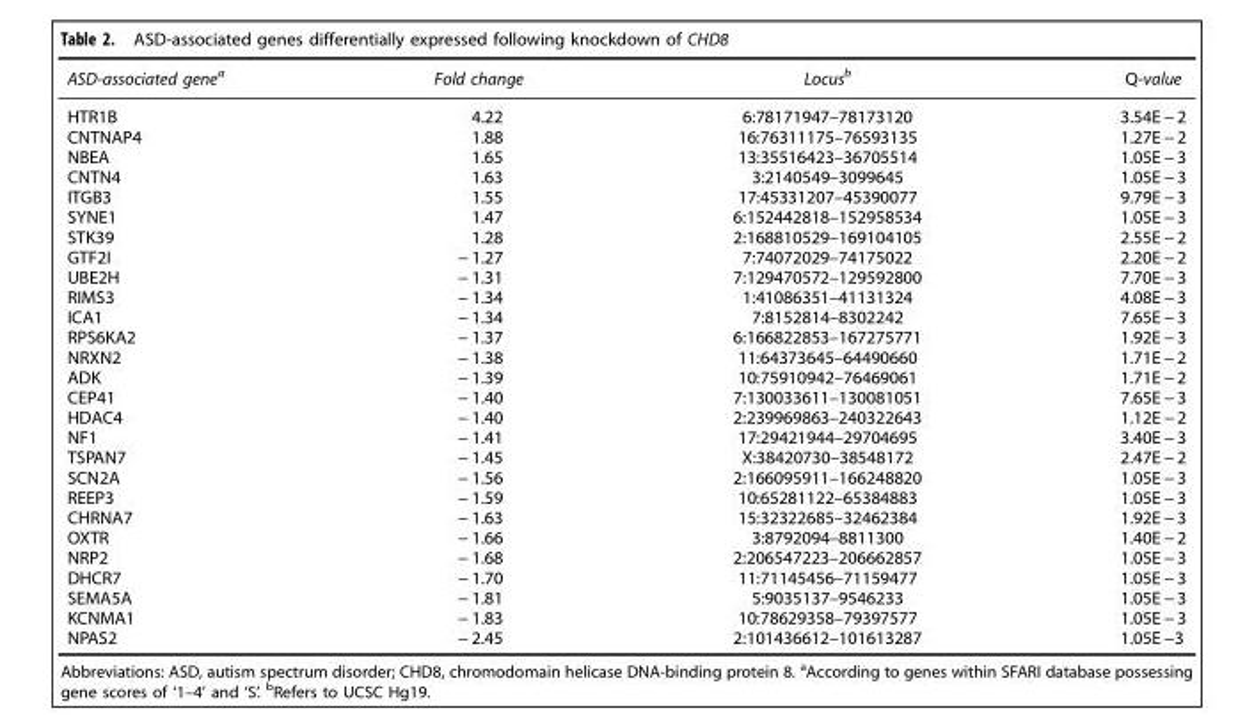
<table><thead><tr><td>ASD-associated gene<sup>a</sup></td><td>Fold change</td><td>Locus<sup>b</sup></td><td>Q-value</td></tr></thead><tbody><tr><td>HTR1B</td><td>4.22</td><td>6:78171947–78173120</td><td>3.54E − 2</td></tr><tr><td>CNTNAP4</td><td>1.88</td><td>16:76311175–76593135</td><td>1.27E − 2</td></tr><tr><td>NBEA</td><td>1.65</td><td>13:35516423–36705514</td><td>1.05E − 3</td></tr><tr><td>CNTN4</td><td>1.63</td><td>3:2140549–3099645</td><td>1.05E − 3</td></tr><tr><td>ITGB3</td><td>1.55</td><td>17:45331207–45390077</td><td>9.79E − 3</td></tr><tr><td>SYNE1</td><td>1.47</td><td>6:152442818–152958534</td><td>1.05E − 3</td></tr><tr><td>STK39</td><td>1.28</td><td>2:168810529–169104105</td><td>2.55E − 2</td></tr><tr><td>GTF2I</td><td>− 1.27</td><td>7:74072029–74175022</td><td>2.20E − 2</td></tr><tr><td>UBE2H</td><td>− 1.31</td><td>7:129470572–129592800</td><td>7.70E − 3</td></tr><tr><td>RIMS3</td><td>− 1.34</td><td>1:41086351–41131324</td><td>4.08E − 3</td></tr><tr><td>ICA1</td><td>− 1.34</td><td>7:8152814–8302242</td><td>7.65E − 3</td></tr><tr><td>RPS6KA2</td><td>− 1.37</td><td>6:166822853–167275771</td><td>1.92E − 3</td></tr><tr><td>NRXN2</td><td>− 1.38</td><td>11:64373645–64490660</td><td>1.71E − 2</td></tr><tr><td>ADK</td><td>− 1.39</td><td>10:75910942–76469061</td><td>1.71E − 2</td></tr><tr><td>CEP41</td><td>− 1.40</td><td>7:130033611–130081051</td><td>7.65E − 3</td></tr><tr><td>HDAC4</td><td>− 1.40</td><td>2:239969863–240322643</td><td>1.12E − 2</td></tr><tr><td>NF1</td><td>− 1.41</td><td>17:29421944–29704695</td><td>3.40E − 3</td></tr><tr><td>TSPAN7</td><td>− 1.45</td><td>X:38420730–38548172</td><td>2.47E − 2</td></tr><tr><td>SCN2A</td><td>− 1.56</td><td>2:166095911–166248820</td><td>1.05E − 3</td></tr><tr><td>REEP3</td><td>− 1.59</td><td>10:65281122–65384883</td><td>1.05E − 3</td></tr><tr><td>CHRNA7</td><td>− 1.63</td><td>15:32322685–32462384</td><td>1.92E − 3</td></tr><tr><td>OXTR</td><td>− 1.66</td><td>3:8792094–8811300</td><td>1.40E − 2</td></tr><tr><td>NRP2</td><td>− 1.68</td><td>2:206547223–206662857</td><td>1.05E − 3</td></tr><tr><td>DHCR7</td><td>− 1.70</td><td>11:71145456–71159477</td><td>1.05E − 3</td></tr><tr><td>SEMA5A</td><td>− 1.81</td><td>5:9035137–9546233</td><td>1.05E − 3</td></tr><tr><td>KCNMA1</td><td>− 1.83</td><td>10:78629358–79397577</td><td>1.05E − 3</td></tr><tr><td>NPAS2</td><td>− 2.45</td><td>2:101436612–101613287</td><td>1.05E −3</td></tr></tbody></table>